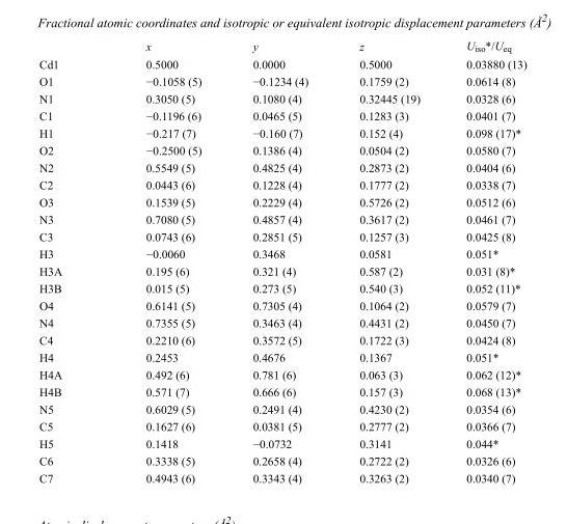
<table><thead><tr><td></td><td>x</td><td>y</td><td>z</td><td>U<sub>iso</sub>*/U<sub>eq</sub></td></tr></thead><tbody><tr><td>Cd1</td><td>0.5000</td><td>0.0000</td><td>0.5000</td><td>0.03880 (13)</td></tr><tr><td>O1</td><td>−0.1058 (5)</td><td>−0.1234 (4)</td><td>0.1759 (2)</td><td>0.0614 (8)</td></tr><tr><td>N1</td><td>0.3050 (5)</td><td>0.1080 (4)</td><td>0.32445 (19)</td><td>0.0328 (6)</td></tr><tr><td>C1</td><td>−0.1196 (6)</td><td>0.0465 (5)</td><td>0.1283 (3)</td><td>0.0401 (7)</td></tr><tr><td>H1</td><td>−0.217 (7)</td><td>−0.160 (7)</td><td>0.152 (4)</td><td>0.098 (17)*</td></tr><tr><td>O2</td><td>−0.2500 (5)</td><td>0.1386 (4)</td><td>0.0504 (2)</td><td>0.0580 (7)</td></tr><tr><td>N2</td><td>0.5549 (5)</td><td>0.4825 (4)</td><td>0.2873 (2)</td><td>0.0404 (6)</td></tr><tr><td>C2</td><td>0.0443 (6)</td><td>0.1228 (4)</td><td>0.1777 (2)</td><td>0.0338 (7)</td></tr><tr><td>O3</td><td>0.1539 (5)</td><td>0.2229 (4)</td><td>0.5726 (2)</td><td>0.0512 (6)</td></tr><tr><td>N3</td><td>0.7080 (5)</td><td>0.4857 (4)</td><td>0.3617 (2)</td><td>0.0461 (7)</td></tr><tr><td>C3</td><td>0.0743 (6)</td><td>0.2851 (5)</td><td>0.1257 (3)</td><td>0.0425 (8)</td></tr><tr><td>H3</td><td>−0.0060</td><td>0.3468</td><td>0.0581</td><td>0.051*</td></tr><tr><td>H3A</td><td>0.195 (6)</td><td>0.321 (4)</td><td>0.587 (2)</td><td>0.031 (8)*</td></tr><tr><td>H3B</td><td>0.015 (5)</td><td>0.273 (5)</td><td>0.540 (3)</td><td>0.052 (11)*</td></tr><tr><td>O4</td><td>0.6141 (5)</td><td>0.7305 (4)</td><td>0.1064 (2)</td><td>0.0579 (7)</td></tr><tr><td>N4</td><td>0.7355 (5)</td><td>0.3463 (4)</td><td>0.4431 (2)</td><td>0.0450 (7)</td></tr><tr><td>C4</td><td>0.2210 (6)</td><td>0.3572 (5)</td><td>0.1722 (3)</td><td>0.0424 (8)</td></tr><tr><td>H4</td><td>0.2453</td><td>0.4676</td><td>0.1367</td><td>0.051*</td></tr><tr><td>H4A</td><td>0.492 (6)</td><td>0.781 (6)</td><td>0.063 (3)</td><td>0.062 (12)*</td></tr><tr><td>H4B</td><td>0.571 (7)</td><td>0.666 (6)</td><td>0.157 (3)</td><td>0.068 (13)*</td></tr><tr><td>N5</td><td>0.6029 (5)</td><td>0.2491 (4)</td><td>0.4230 (2)</td><td>0.0354 (6)</td></tr><tr><td>C5</td><td>0.1627 (6)</td><td>0.0381 (5)</td><td>0.2777 (2)</td><td>0.0366 (7)</td></tr><tr><td>H5</td><td>0.1418</td><td>−0.0732</td><td>0.3141</td><td>0.044*</td></tr><tr><td>C6</td><td>0.3338 (5)</td><td>0.2658 (4)</td><td>0.2722 (2)</td><td>0.0326 (6)</td></tr><tr><td>C7</td><td>0.4943 (6)</td><td>0.3343 (4)</td><td>0.3263 (2)</td><td>0.0340 (7)</td></tr></tbody></table>